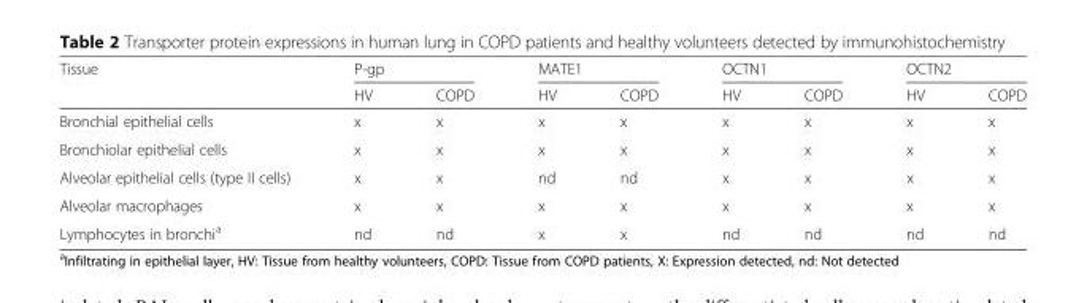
<table><thead><tr><td rowspan="2">Tissue</td><td colspan="2">P-gp</td><td colspan="2">MATE1</td><td colspan="2">OCTN1</td><td colspan="2">OCTN2</td></tr><tr><td>HV</td><td>COPD</td><td>HV</td><td>COPD</td><td>HV</td><td>COPD</td><td>HV</td><td>COPD</td></tr></thead><tbody><tr><td>Bronchial epithelial cells</td><td>x</td><td>x</td><td>x</td><td>x</td><td>x</td><td>x</td><td>x</td><td>x</td></tr><tr><td>Bronchiolar epithelial cells</td><td>x</td><td>x</td><td>x</td><td>x</td><td>x</td><td>x</td><td>x</td><td>x</td></tr><tr><td>Alveolar epithelial cells (type II cells)</td><td>x</td><td>x</td><td>nd</td><td>nd</td><td>x</td><td>x</td><td>x</td><td>x</td></tr><tr><td>Alveolar macrophages</td><td>x</td><td>x</td><td>x</td><td>x</td><td>x</td><td>x</td><td>x</td><td>x</td></tr><tr><td>Lymphocytes in bronchi<sup>a</sup></td><td>nd</td><td>nd</td><td>x</td><td>x</td><td>nd</td><td>nd</td><td>nd</td><td>nd</td></tr></tbody></table>